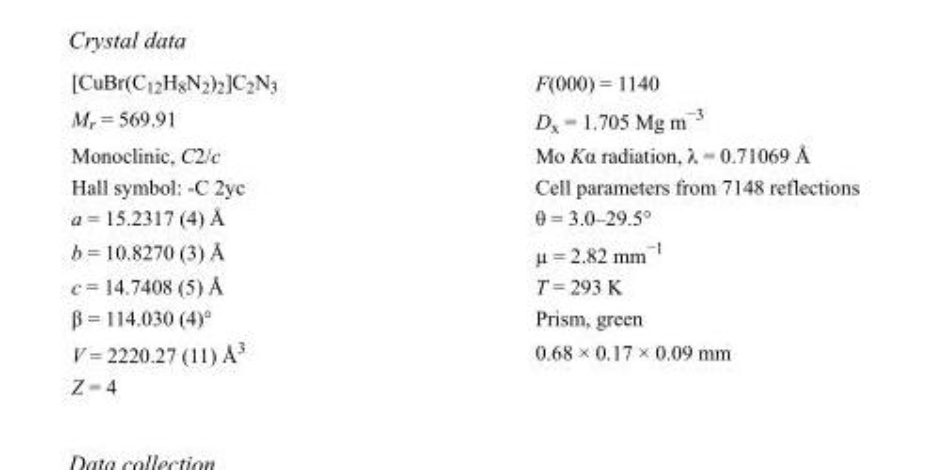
<table><tbody><tr><td>[CuBr(C<sub>12</sub>H<sub>8</sub>N<sub>2</sub>)<sub>2</sub>]C<sub>2</sub>N<sub>3</sub></td><td>F(000) = 1140</td></tr><tr><td>M<sub>r</sub> = 569.91</td><td>D<sub>x</sub> = 1.705 Mg m<sup>−3</sup></td></tr><tr><td>Monoclinic, C2/c</td><td>Mo Kα radiation, λ = 0.71069 Å</td></tr><tr><td>Hall symbol: -C 2yc</td><td>Cell parameters from 7148 reflections</td></tr><tr><td>a = 15.2317 (4) Å</td><td>θ = 3.0–29.5°</td></tr><tr><td>b = 10.8270 (3) Å</td><td>µ = 2.82 mm<sup>−1</sup></td></tr><tr><td>c = 14.7408 (5) Å</td><td>T = 293 K</td></tr><tr><td>β = 114.030 (4)°</td><td>Prism, green</td></tr><tr><td>V = 2220.27 (11) Å<sup>3</sup></td><td>0.68 × 0.17 × 0.09 mm</td></tr><tr><td>Z = 4</td><td></td></tr></tbody></table>